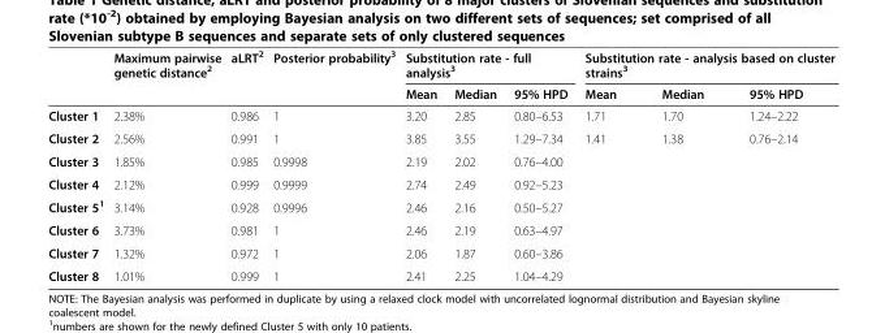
<table><thead><tr><td rowspan="2"></td><td rowspan="2">Maximum pairwise genetic distance<sup>2</sup></td><td rowspan="2">aLRT<sup>2</sup></td><td rowspan="2">Posterior probability<sup>3</sup></td><td colspan="3">Substitution rate - full analysis<sup>3</sup></td><td colspan="3">Substitution rate - analysis based on cluster strains<sup>3</sup></td></tr><tr><td>Mean</td><td>Median</td><td>95% HPD</td><td>Mean</td><td>Median</td><td>95% HPD</td></tr></thead><tbody><tr><td>Cluster 1</td><td>2.38%</td><td>0.986</td><td>1</td><td>3.20</td><td>2.85</td><td>0.80–6.53</td><td>1.71</td><td>1.70</td><td>1.24–2.22</td></tr><tr><td>Cluster 2</td><td>2.56%</td><td>0.991</td><td>1</td><td>3.85</td><td>3.55</td><td>1.29–7.34</td><td>1.41</td><td>1.38</td><td>0.76–2.14</td></tr><tr><td>Cluster 3</td><td>1.85%</td><td>0.985</td><td>0.9998</td><td>2.19</td><td>2.02</td><td>0.76–4.00</td><td></td><td></td><td></td></tr><tr><td>Cluster 4</td><td>2.12%</td><td>0.999</td><td>0.9999</td><td>2.74</td><td>2.49</td><td>0.92–5.23</td><td></td><td></td><td></td></tr><tr><td>Cluster 5<sup>1</sup></td><td>3.14%</td><td>0.928</td><td>0.9996</td><td>2.46</td><td>2.16</td><td>0.50–5.27</td><td></td><td></td><td></td></tr><tr><td>Cluster 6</td><td>3.73%</td><td>0.981</td><td>1</td><td>2.46</td><td>2.19</td><td>0.63–4.97</td><td></td><td></td><td></td></tr><tr><td>Cluster 7</td><td>1.32%</td><td>0.972</td><td>1</td><td>2.06</td><td>1.87</td><td>0.60–3.86</td><td></td><td></td><td></td></tr><tr><td>Cluster 8</td><td>1.01%</td><td>0.999</td><td>1</td><td>2.41</td><td>2.25</td><td>1.04–4.29</td><td></td><td></td><td></td></tr></tbody></table>